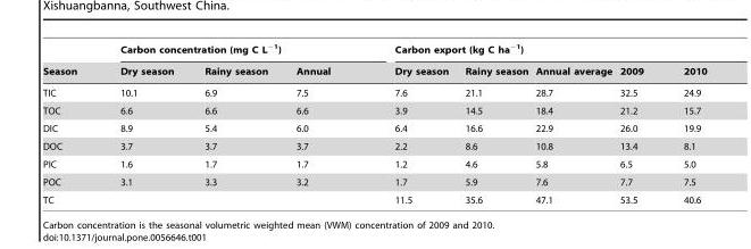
<table><thead><tr><td rowspan="2">Season</td><td colspan="3">Carbon concentration (mg C L<sup>−1</sup>)</td><td colspan="5">Carbon export (kg C ha<sup>−1</sup>)</td></tr><tr><td>Dry season</td><td>Rainy season</td><td>Annual</td><td>Dry season</td><td>Rainy season</td><td>Annual average</td><td>2009</td><td>2010</td></tr></thead><tbody><tr><td>TIC</td><td>10.1</td><td>6.9</td><td>7.5</td><td>7.6</td><td>21.1</td><td>28.7</td><td>32.5</td><td>24.9</td></tr><tr><td>TOC</td><td>6.6</td><td>6.6</td><td>6.6</td><td>3.9</td><td>14.5</td><td>18.4</td><td>21.2</td><td>15.7</td></tr><tr><td>DIC</td><td>8.9</td><td>5.4</td><td>6.0</td><td>6.4</td><td>16.6</td><td>22.9</td><td>26.0</td><td>19.9</td></tr><tr><td>DOC</td><td>3.7</td><td>3.7</td><td>3.7</td><td>2.2</td><td>8.6</td><td>10.8</td><td>13.4</td><td>8.1</td></tr><tr><td>PIC</td><td>1.6</td><td>1.7</td><td>1.7</td><td>1.2</td><td>4.6</td><td>5.8</td><td>6.5</td><td>5.0</td></tr><tr><td>POC</td><td>3.1</td><td>3.3</td><td>3.2</td><td>1.7</td><td>5.9</td><td>7.6</td><td>7.7</td><td>7.5</td></tr><tr><td>TC</td><td></td><td></td><td></td><td>11.5</td><td>35.6</td><td>47.1</td><td>53.5</td><td>40.6</td></tr></tbody></table>